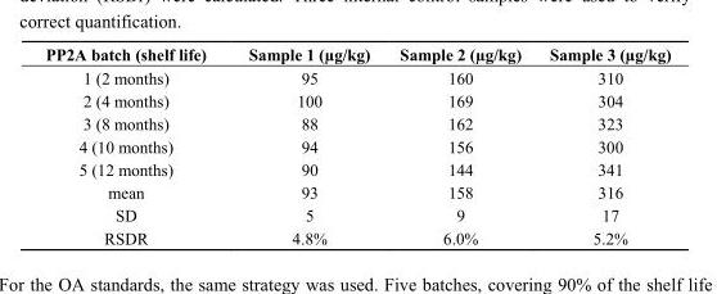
<table><thead><tr><td>PP2A batch (shelf life)</td><td>Sample 1 (µg/kg)</td><td>Sample 2 (µg/kg)</td><td>Sample 3 (µg/kg)</td></tr></thead><tbody><tr><td>1 (2 months)</td><td>95</td><td>160</td><td>310</td></tr><tr><td>2 (4 months)</td><td>100</td><td>169</td><td>304</td></tr><tr><td>3 (8 months)</td><td>88</td><td>162</td><td>323</td></tr><tr><td>4 (10 months)</td><td>94</td><td>156</td><td>300</td></tr><tr><td>5 (12 months)</td><td>90</td><td>144</td><td>341</td></tr><tr><td>mean</td><td>93</td><td>158</td><td>316</td></tr><tr><td>SD</td><td>5</td><td>9</td><td>17</td></tr><tr><td>RSDR</td><td>4.8%</td><td>6.0%</td><td>5.2%</td></tr></tbody></table>